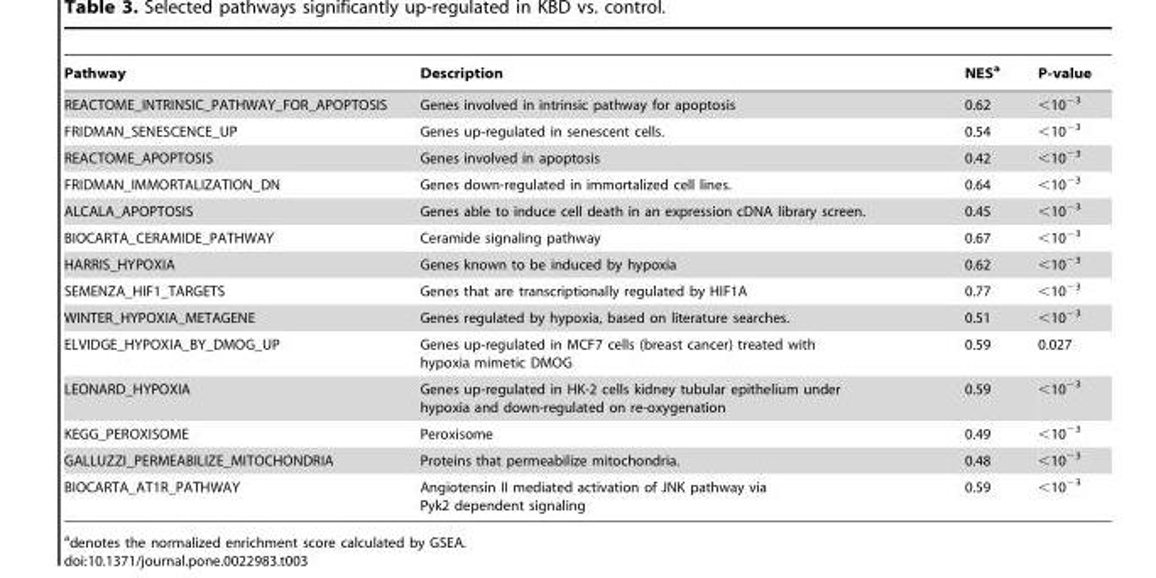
<table><thead><tr><td>Pathway</td><td>Description</td><td>NES<sup>a</sup></td><td>P-value</td></tr></thead><tbody><tr><td>REACTOME_INTRINSIC_PATHWAY_FOR_APOPTOSIS</td><td>Genes involved in intrinsic pathway for apoptosis</td><td>0.62</td><td>&lt;10<sup>−3</sup></td></tr><tr><td>FRIDMAN_SENESCENCE_UP</td><td>Genes up-regulated in senescent cells.</td><td>0.54</td><td>&lt;10<sup>−3</sup></td></tr><tr><td>REACTOME_APOPTOSIS</td><td>Genes involved in apoptosis</td><td>0.42</td><td>&lt;10<sup>−3</sup></td></tr><tr><td>FRIDMAN_IMMORTALIZATION_DN</td><td>Genes down-regulated in immortalized cell lines.</td><td>0.64</td><td>&lt;10<sup>−3</sup></td></tr><tr><td>ALCALA_APOPTOSIS</td><td>Genes able to induce cell death in an expression cDNA library screen.</td><td>0.45</td><td>&lt;10<sup>−3</sup></td></tr><tr><td>BIOCARTA_CERAMIDE_PATHWAY</td><td>Ceramide signaling pathway</td><td>0.67</td><td>&lt;10<sup>−3</sup></td></tr><tr><td>HARRIS_HYPOXIA</td><td>Genes known to be induced by hypoxia</td><td>0.62</td><td>&lt;10<sup>−3</sup></td></tr><tr><td>SEMENZA_HIF1_TARGETS</td><td>Genes that are transcriptionally regulated by HIF1A</td><td>0.77</td><td>&lt;10<sup>−3</sup></td></tr><tr><td>WINTER_HYPOXIA_METAGENE</td><td>Genes regulated by hypoxia, based on literature searches.</td><td>0.51</td><td>&lt;10<sup>−3</sup></td></tr><tr><td>ELVIDGE_HYPOXIA_BY_DMOG_UP</td><td>Genes up-regulated in MCF7 cells (breast cancer) treated with hypoxia mimetic DMOG</td><td>0.59</td><td>0.027</td></tr><tr><td>LEONARD_HYPOXIA</td><td>Genes up-regulated in HK-2 cells kidney tubular epithelium under hypoxia and down-regulated on re-oxygenation</td><td>0.59</td><td>&lt;10<sup>−3</sup></td></tr><tr><td>KEGG_PEROXISOME</td><td>Peroxisome</td><td>0.49</td><td>&lt;10<sup>−3</sup></td></tr><tr><td>GALLUZZI_PERMEABILIZE_MITOCHONDRIA</td><td>Proteins that permeabilize mitochondria.</td><td>0.48</td><td>&lt;10<sup>−3</sup></td></tr><tr><td>BIOCARTA_AT1R_PATHWAY</td><td>Angiotensin II mediated activation of JNK pathway via Pyk2 dependent signaling</td><td>0.59</td><td>&lt;10<sup>−3</sup></td></tr></tbody></table>